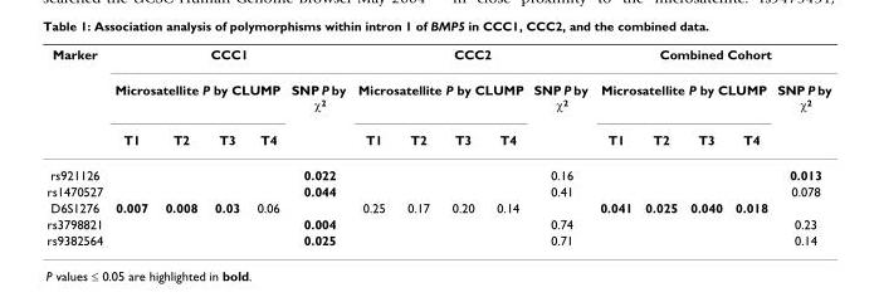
<table><thead><tr><td rowspan="3">Marker</td><td colspan="5">CCC1</td><td colspan="5">CCC2</td><td colspan="5">Combined Cohort</td></tr><tr><td colspan="4">Microsatellite P by CLUMP</td><td rowspan="2">SNP P by χ<sup>2</sup></td><td colspan="4">Microsatellite P by CLUMP</td><td rowspan="2">SNP P by χ<sup>2</sup></td><td colspan="4">Microsatellite P by CLUMP</td><td rowspan="2">SNP P by χ<sup>2</sup></td></tr><tr><td>T1</td><td>T2</td><td>T3</td><td>T4</td><td>T1</td><td>T2</td><td>T3</td><td>T4</td><td>T1</td><td>T2</td><td>T3</td><td>T4</td></tr></thead><tbody><tr><td>rs921126</td><td></td><td></td><td></td><td></td><td>0.022</td><td></td><td></td><td></td><td></td><td>0.16</td><td></td><td></td><td></td><td></td><td>0.013</td></tr><tr><td>rs1470527</td><td></td><td></td><td></td><td></td><td>0.044</td><td></td><td></td><td></td><td></td><td>0.41</td><td></td><td></td><td></td><td></td><td>0.078</td></tr><tr><td>D6S1276</td><td>0.007</td><td>0.008</td><td>0.03</td><td>0.06</td><td></td><td>0.25</td><td>0.17</td><td>0.20</td><td>0.14</td><td></td><td>0.041</td><td>0.025</td><td>0.040</td><td>0.018</td><td></td></tr><tr><td>rs3798821</td><td></td><td></td><td></td><td></td><td>0.004</td><td></td><td></td><td></td><td></td><td>0.74</td><td></td><td></td><td></td><td></td><td>0.23</td></tr><tr><td>rs9382564</td><td></td><td></td><td></td><td></td><td>0.025</td><td></td><td></td><td></td><td></td><td>0.71</td><td></td><td></td><td></td><td></td><td>0.14</td></tr></tbody></table>